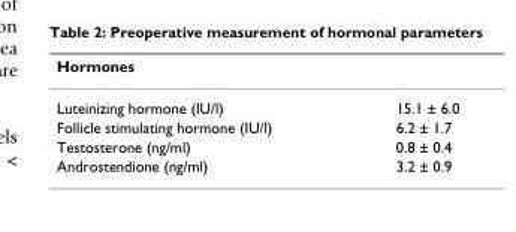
<table><thead><tr><td>Hormones</td><td></td></tr></thead><tbody><tr><td>Luteinizing hormone (IU/l)</td><td>15.1 ± 6.0</td></tr><tr><td>Follicle stimulating hormone (IU/l)</td><td>6.2 ± 1.7</td></tr><tr><td>Testosterone (ng/ml)</td><td>0.8 ± 0.4</td></tr><tr><td>Androstendione (ng/ml)</td><td>3.2 ± 0.9</td></tr></tbody></table>